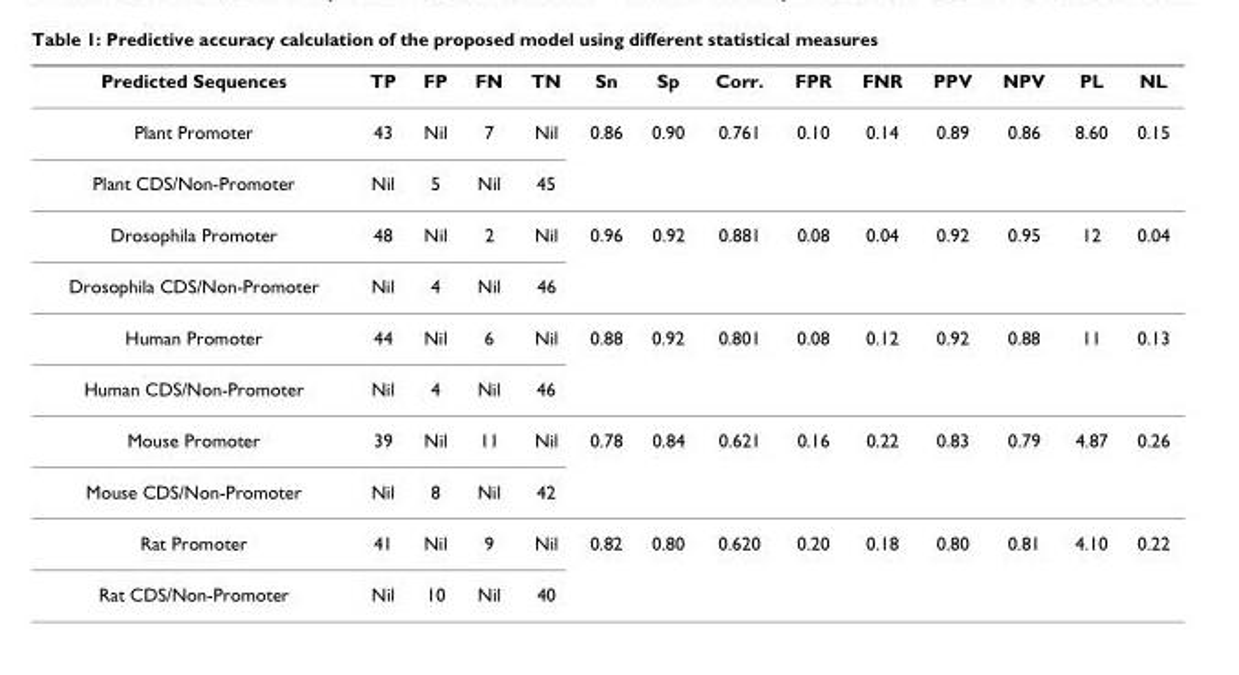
<table><thead><tr><td>Predicted Sequences</td><td>TP</td><td>FP</td><td>FN</td><td>TN</td><td>Sn</td><td>Sp</td><td>Corr.</td><td>FPR</td><td>FNR</td><td>PPV</td><td>NPV</td><td>PL</td><td>NL</td></tr></thead><tbody><tr><td>Plant Promoter</td><td>43</td><td>Nil</td><td>7</td><td>Nil</td><td>0.86</td><td>0.90</td><td>0.761</td><td>0.10</td><td>0.14</td><td>0.89</td><td>0.86</td><td>8.60</td><td>0.15</td></tr><tr><td>Plant CDS/Non-Promoter</td><td>Nil</td><td>5</td><td>Nil</td><td>45</td><td></td><td></td><td></td><td></td><td></td><td></td><td></td><td></td><td></td></tr><tr><td>Drosophila Promoter</td><td>48</td><td>Nil</td><td>2</td><td>Nil</td><td>0.96</td><td>0.92</td><td>0.881</td><td>0.08</td><td>0.04</td><td>0.92</td><td>0.95</td><td>12</td><td>0.04</td></tr><tr><td>Drosophila CDS/Non-Promoter</td><td>Nil</td><td>4</td><td>Nil</td><td>46</td><td></td><td></td><td></td><td></td><td></td><td></td><td></td><td></td><td></td></tr><tr><td>Human Promoter</td><td>44</td><td>Nil</td><td>6</td><td>Nil</td><td>0.88</td><td>0.92</td><td>0.801</td><td>0.08</td><td>0.12</td><td>0.92</td><td>0.88</td><td>11</td><td>0.13</td></tr><tr><td>Human CDS/Non-Promoter</td><td>Nil</td><td>4</td><td>Nil</td><td>46</td><td></td><td></td><td></td><td></td><td></td><td></td><td></td><td></td><td></td></tr><tr><td>Mouse Promoter</td><td>39</td><td>Nil</td><td>11</td><td>Nil</td><td>0.78</td><td>0.84</td><td>0.621</td><td>0.16</td><td>0.22</td><td>0.83</td><td>0.79</td><td>4.87</td><td>0.26</td></tr><tr><td>Mouse CDS/Non-Promoter</td><td>Nil</td><td>8</td><td>Nil</td><td>42</td><td></td><td></td><td></td><td></td><td></td><td></td><td></td><td></td><td></td></tr><tr><td>Rat Promoter</td><td>41</td><td>Nil</td><td>9</td><td>Nil</td><td>0.82</td><td>0.80</td><td>0.620</td><td>0.20</td><td>0.18</td><td>0.80</td><td>0.81</td><td>4.10</td><td>0.22</td></tr><tr><td>Rat CDS/Non-Promoter</td><td>Nil</td><td>10</td><td>Nil</td><td>40</td><td></td><td></td><td></td><td></td><td></td><td></td><td></td><td></td><td></td></tr></tbody></table>